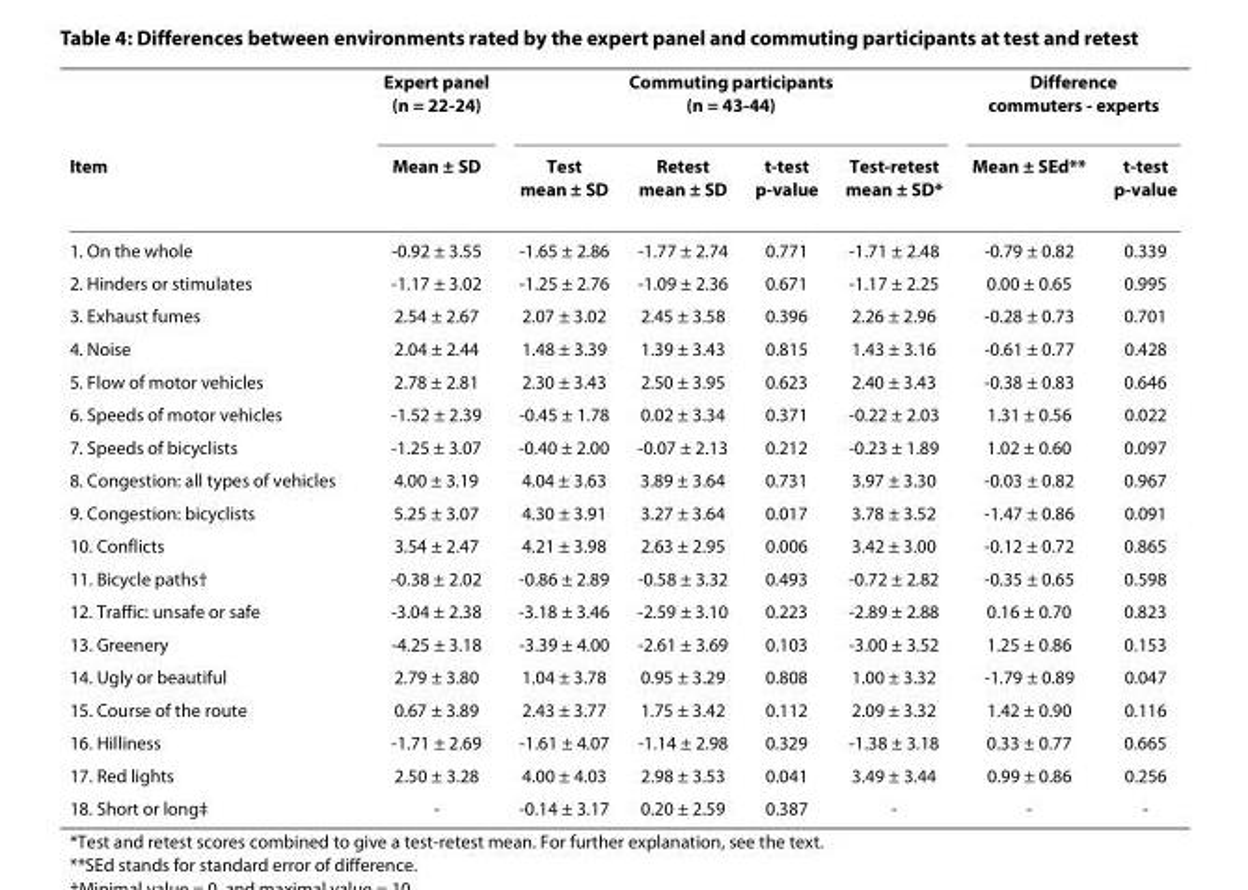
<table><thead><tr><td rowspan="2">Item</td><td rowspan="2">Expert panel (n = 22-24) Mean ± SD</td><td colspan="4">Commuting participants (n = 43-44)</td><td colspan="2">Difference commuters - experts</td></tr><tr><td>Test mean ± SD</td><td>Retest mean ± SD</td><td>t-test p-value</td><td>Test-retest mean ± SD*</td><td>Mean ± SEd**</td><td>t-test p-value</td></tr></thead><tbody><tr><td>1. On the whole</td><td>-0.92 ± 3.55</td><td>-1.65 ± 2.86</td><td>-1.77 ± 2.74</td><td>0.771</td><td>-1.71 ± 2.48</td><td>-0.79 ± 0.82</td><td>0.339</td></tr><tr><td>2. Hinders or stimulates</td><td>-1.17 ± 3.02</td><td>-1.25 ± 2.76</td><td>-1.09 ± 2.36</td><td>0.671</td><td>-1.17 ± 2.25</td><td>0.00 ± 0.65</td><td>0.995</td></tr><tr><td>3. Exhaust fumes</td><td>2.54 ± 2.67</td><td>2.07 ± 3.02</td><td>2.45 ± 3.58</td><td>0.396</td><td>2.26 ± 2.96</td><td>-0.28 ± 0.73</td><td>0.701</td></tr><tr><td>4. Noise</td><td>2.04 ± 2.44</td><td>1.48 ± 3.39</td><td>1.39 ± 3.43</td><td>0.815</td><td>1.43 ± 3.16</td><td>-0.61 ± 0.77</td><td>0.428</td></tr><tr><td>5. Flow of motor vehicles</td><td>2.78 ± 2.81</td><td>2.30 ± 3.43</td><td>2.50 ± 3.95</td><td>0.623</td><td>2.40 ± 3.43</td><td>-0.38 ± 0.83</td><td>0.646</td></tr><tr><td>6. Speeds of motor vehicles</td><td>-1.52 ± 2.39</td><td>-0.45 ± 1.78</td><td>0.02 ± 3.34</td><td>0.371</td><td>-0.22 ± 2.03</td><td>1.31 ± 0.56</td><td>0.022</td></tr><tr><td>7. Speeds of bicyclists</td><td>-1.25 ± 3.07</td><td>-0.40 ± 2.00</td><td>-0.07 ± 2.13</td><td>0.212</td><td>-0.23 ± 1.89</td><td>1.02 ± 0.60</td><td>0.097</td></tr><tr><td>8. Congestion: all types of vehicles</td><td>4.00 ± 3.19</td><td>4.04 ± 3.63</td><td>3.89 ± 3.64</td><td>0.731</td><td>3.97 ± 3.30</td><td>-0.03 ± 0.82</td><td>0.967</td></tr><tr><td>9. Congestion: bicyclists</td><td>5.25 ± 3.07</td><td>4.30 ± 3.91</td><td>3.27 ± 3.64</td><td>0.017</td><td>3.78 ± 3.52</td><td>-1.47 ± 0.86</td><td>0.091</td></tr><tr><td>10. Conflicts</td><td>3.54 ± 2.47</td><td>4.21 ± 3.98</td><td>2.63 ± 2.95</td><td>0.006</td><td>3.42 ± 3.00</td><td>-0.12 ± 0.72</td><td>0.865</td></tr><tr><td>11. Bicycle paths†</td><td>-0.38 ± 2.02</td><td>-0.86 ± 2.89</td><td>-0.58 ± 3.32</td><td>0.493</td><td>-0.72 ± 2.82</td><td>-0.35 ± 0.65</td><td>0.598</td></tr><tr><td>12. Traffic: unsafe or safe</td><td>-3.04 ± 2.38</td><td>-3.18 ± 3.46</td><td>-2.59 ± 3.10</td><td>0.223</td><td>-2.89 ± 2.88</td><td>0.16 ± 0.70</td><td>0.823</td></tr><tr><td>13. Greenery</td><td>-4.25 ± 3.18</td><td>-3.39 ± 4.00</td><td>-2.61 ± 3.69</td><td>0.103</td><td>-3.00 ± 3.52</td><td>1.25 ± 0.86</td><td>0.153</td></tr><tr><td>14. Ugly or beautiful</td><td>2.79 ± 3.80</td><td>1.04 ± 3.78</td><td>0.95 ± 3.29</td><td>0.808</td><td>1.00 ± 3.32</td><td>-1.79 ± 0.89</td><td>0.047</td></tr><tr><td>15. Course of the route</td><td>0.67 ± 3.89</td><td>2.43 ± 3.77</td><td>1.75 ± 3.42</td><td>0.112</td><td>2.09 ± 3.32</td><td>1.42 ± 0.90</td><td>0.116</td></tr><tr><td>16. Hilliness</td><td>-1.71 ± 2.69</td><td>-1.61 ± 4.07</td><td>-1.14 ± 2.98</td><td>0.329</td><td>-1.38 ± 3.18</td><td>0.33 ± 0.77</td><td>0.665</td></tr><tr><td>17. Red lights</td><td>2.50 ± 3.28</td><td>4.00 ± 4.03</td><td>2.98 ± 3.53</td><td>0.041</td><td>3.49 ± 3.44</td><td>0.99 ± 0.86</td><td>0.256</td></tr><tr><td>18. Short or long‡</td><td>-</td><td>-0.14 ± 3.17</td><td>0.20 ± 2.59</td><td>0.387</td><td>-</td><td>-</td><td>-</td></tr></tbody></table>